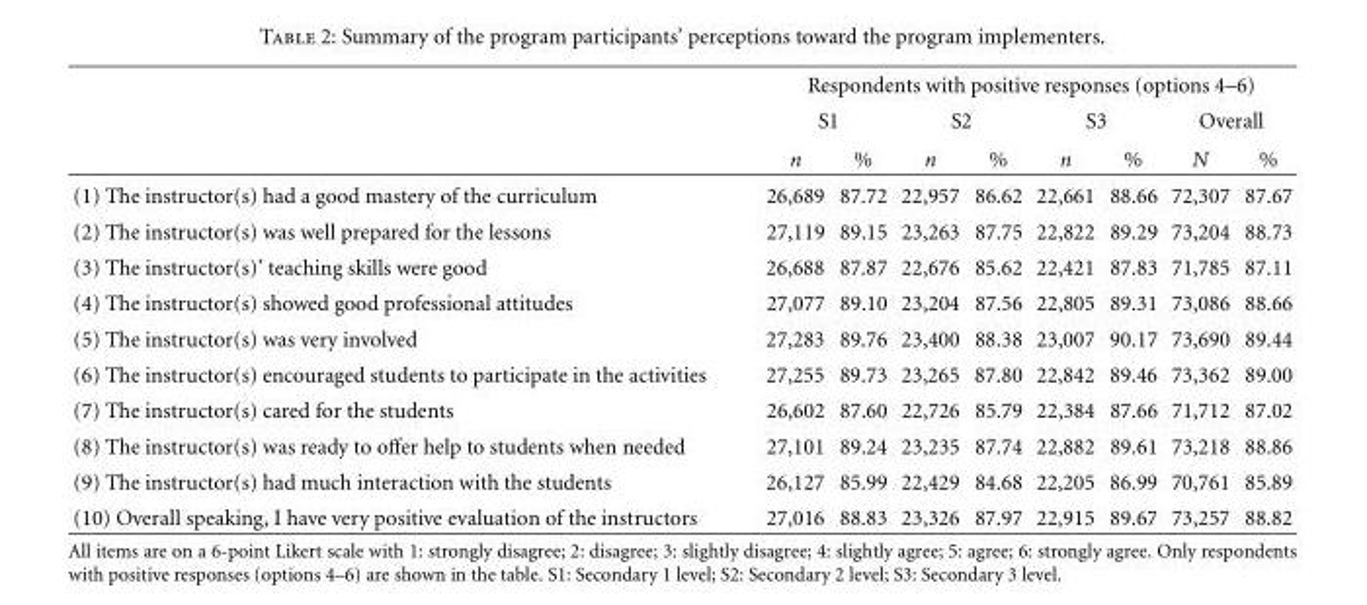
<table><thead><tr><td rowspan="3"></td><td colspan="8">Respondents with positive responses (options 4–6)</td></tr><tr><td colspan="2">S1</td><td colspan="2">S2</td><td colspan="2">S3</td><td colspan="2">Overall</td></tr><tr><td>n</td><td>%</td><td>n</td><td>%</td><td>n</td><td>%</td><td>N</td><td>%</td></tr></thead><tbody><tr><td>(1) The instructor(s) had a good mastery of the curriculum</td><td>26,689</td><td>87.72</td><td>22,957</td><td>86.62</td><td>22,661</td><td>88.66</td><td>72,307</td><td>87.67</td></tr><tr><td>(2) The instructor(s) was well prepared for the lessons</td><td>27,119</td><td>89.15</td><td>23,263</td><td>87.75</td><td>22,822</td><td>89.29</td><td>73,204</td><td>88.73</td></tr><tr><td>(3) The instructor(s)’ teaching skills were good</td><td>26,688</td><td>87.87</td><td>22,676</td><td>85.62</td><td>22,421</td><td>87.83</td><td>71,785</td><td>87.11</td></tr><tr><td>(4) The instructor(s) showed good professional attitudes</td><td>27,077</td><td>89.10</td><td>23,204</td><td>87.56</td><td>22,805</td><td>89.31</td><td>73,086</td><td>88.66</td></tr><tr><td>(5) The instructor(s) was very involved</td><td>27,283</td><td>89.76</td><td>23,400</td><td>88.38</td><td>23,007</td><td>90.17</td><td>73,690</td><td>89.44</td></tr><tr><td>(6) The instructor(s) encouraged students to participate in the activities</td><td>27,255</td><td>89.73</td><td>23,265</td><td>87.80</td><td>22,842</td><td>89.46</td><td>73,362</td><td>89.00</td></tr><tr><td>(7) The instructor(s) cared for the students</td><td>26,602</td><td>87.60</td><td>22,726</td><td>85.79</td><td>22,384</td><td>87.66</td><td>71,712</td><td>87.02</td></tr><tr><td>(8) The instructor(s) was ready to offer help to students when needed</td><td>27,101</td><td>89.24</td><td>23,235</td><td>87.74</td><td>22,882</td><td>89.61</td><td>73,218</td><td>88.86</td></tr><tr><td>(9) The instructor(s) had much interaction with the students</td><td>26,127</td><td>85.99</td><td>22,429</td><td>84.68</td><td>22,205</td><td>86.99</td><td>70,761</td><td>85.89</td></tr><tr><td>(10) Overall speaking, I have very positive evaluation of the instructors</td><td>27,016</td><td>88.83</td><td>23,326</td><td>87.97</td><td>22,915</td><td>89.67</td><td>73,257</td><td>88.82</td></tr></tbody></table>